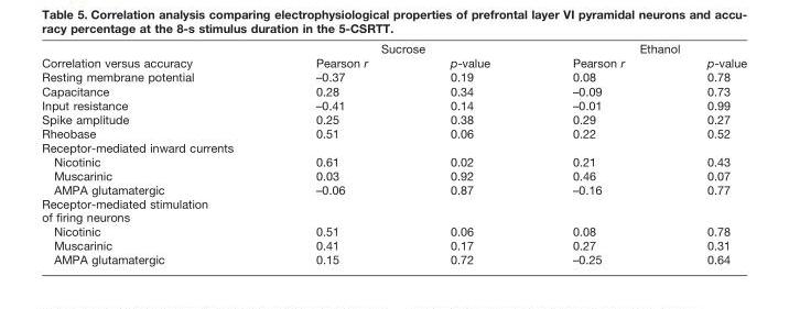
<table><thead><tr><td rowspan="2">Correlation versus accuracy</td><td colspan="2">Sucrose</td><td colspan="2">Ethanol</td></tr><tr><td>Pearson r</td><td>p-value</td><td>Pearson r</td><td>p-value</td></tr></thead><tbody><tr><td>Resting membrane potential</td><td>–0.37</td><td>0.19</td><td>0.08</td><td>0.78</td></tr><tr><td>Capacitance</td><td>0.28</td><td>0.34</td><td>–0.09</td><td>0.73</td></tr><tr><td>Input resistance</td><td>–0.41</td><td>0.14</td><td>–0.01</td><td>0.99</td></tr><tr><td>Spike amplitude</td><td>0.25</td><td>0.38</td><td>0.29</td><td>0.27</td></tr><tr><td>Rheobase</td><td>0.51</td><td>0.06</td><td>0.22</td><td>0.52</td></tr><tr><td colspan="5">Receptor-mediated inward currents</td></tr><tr><td>Nicotinic</td><td>0.61</td><td>0.02</td><td>0.21</td><td>0.43</td></tr><tr><td>Muscarinic</td><td>0.03</td><td>0.92</td><td>0.46</td><td>0.07</td></tr><tr><td>AMPA glutamatergic</td><td>–0.06</td><td>0.87</td><td>–0.16</td><td>0.77</td></tr><tr><td colspan="5">Receptor-mediated stimulation of firing neurons</td></tr><tr><td>Nicotinic</td><td>0.51</td><td>0.06</td><td>0.08</td><td>0.78</td></tr><tr><td>Muscarinic</td><td>0.41</td><td>0.17</td><td>0.27</td><td>0.31</td></tr><tr><td>AMPA glutamatergic</td><td>0.15</td><td>0.72</td><td>–0.25</td><td>0.64</td></tr></tbody></table>